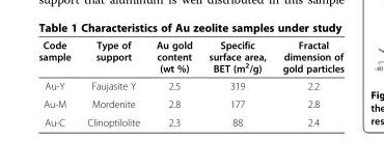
<table><thead><tr><td>Code sample</td><td>Type of support</td><td>Au gold content (wt %)</td><td>Specific surface area, BET (m<sup>2</sup>/g)</td><td>Fractal dimension of gold particles</td></tr></thead><tbody><tr><td>Au-Y</td><td>Faujasite Y</td><td>2.5</td><td>319</td><td>2.2</td></tr><tr><td>Au-M</td><td>Mordenite</td><td>2.8</td><td>177</td><td>2.8</td></tr><tr><td>Au-C</td><td>Clinoptilolite</td><td>2.3</td><td>88</td><td>2.4</td></tr></tbody></table>